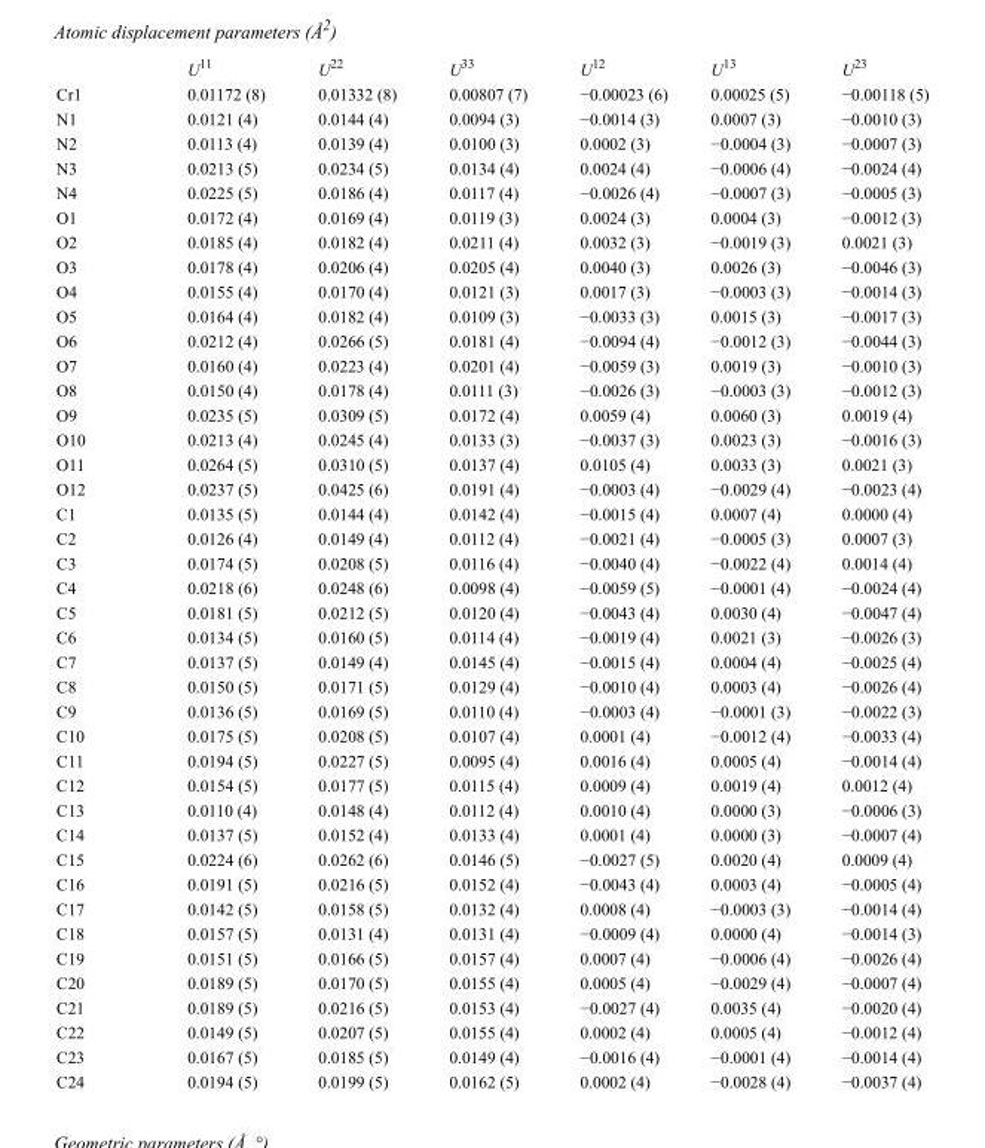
<table><thead><tr><td></td><td>U<sup>11</sup></td><td>U<sup>22</sup></td><td>U<sup>33</sup></td><td>U<sup>12</sup></td><td>U<sup>13</sup></td><td>U<sup>23</sup></td></tr></thead><tbody><tr><td>Cr1</td><td>0.01172 (8)</td><td>0.01332 (8)</td><td>0.00807 (7)</td><td>−0.00023 (6)</td><td>0.00025 (5)</td><td>−0.00118 (5)</td></tr><tr><td>N1</td><td>0.0121 (4)</td><td>0.0144 (4)</td><td>0.0094 (3)</td><td>−0.0014 (3)</td><td>0.0007 (3)</td><td>−0.0010 (3)</td></tr><tr><td>N2</td><td>0.0113 (4)</td><td>0.0139 (4)</td><td>0.0100 (3)</td><td>0.0002 (3)</td><td>−0.0004 (3)</td><td>−0.0007 (3)</td></tr><tr><td>N3</td><td>0.0213 (5)</td><td>0.0234 (5)</td><td>0.0134 (4)</td><td>0.0024 (4)</td><td>−0.0006 (4)</td><td>−0.0024 (4)</td></tr><tr><td>N4</td><td>0.0225 (5)</td><td>0.0186 (4)</td><td>0.0117 (4)</td><td>−0.0026 (4)</td><td>−0.0007 (3)</td><td>−0.0005 (3)</td></tr><tr><td>O1</td><td>0.0172 (4)</td><td>0.0169 (4)</td><td>0.0119 (3)</td><td>0.0024 (3)</td><td>0.0004 (3)</td><td>−0.0012 (3)</td></tr><tr><td>O2</td><td>0.0185 (4)</td><td>0.0182 (4)</td><td>0.0211 (4)</td><td>0.0032 (3)</td><td>−0.0019 (3)</td><td>0.0021 (3)</td></tr><tr><td>O3</td><td>0.0178 (4)</td><td>0.0206 (4)</td><td>0.0205 (4)</td><td>0.0040 (3)</td><td>0.0026 (3)</td><td>−0.0046 (3)</td></tr><tr><td>O4</td><td>0.0155 (4)</td><td>0.0170 (4)</td><td>0.0121 (3)</td><td>0.0017 (3)</td><td>−0.0003 (3)</td><td>−0.0014 (3)</td></tr><tr><td>O5</td><td>0.0164 (4)</td><td>0.0182 (4)</td><td>0.0109 (3)</td><td>−0.0033 (3)</td><td>0.0015 (3)</td><td>−0.0017 (3)</td></tr><tr><td>O6</td><td>0.0212 (4)</td><td>0.0266 (5)</td><td>0.0181 (4)</td><td>−0.0094 (4)</td><td>−0.0012 (3)</td><td>−0.0044 (3)</td></tr><tr><td>O7</td><td>0.0160 (4)</td><td>0.0223 (4)</td><td>0.0201 (4)</td><td>−0.0059 (3)</td><td>0.0019 (3)</td><td>−0.0010 (3)</td></tr><tr><td>O8</td><td>0.0150 (4)</td><td>0.0178 (4)</td><td>0.0111 (3)</td><td>−0.0026 (3)</td><td>−0.0003 (3)</td><td>−0.0012 (3)</td></tr><tr><td>O9</td><td>0.0235 (5)</td><td>0.0309 (5)</td><td>0.0172 (4)</td><td>0.0059 (4)</td><td>0.0060 (3)</td><td>0.0019 (4)</td></tr><tr><td>O10</td><td>0.0213 (4)</td><td>0.0245 (4)</td><td>0.0133 (3)</td><td>−0.0037 (3)</td><td>0.0023 (3)</td><td>−0.0016 (3)</td></tr><tr><td>O11</td><td>0.0264 (5)</td><td>0.0310 (5)</td><td>0.0137 (4)</td><td>0.0105 (4)</td><td>0.0033 (3)</td><td>0.0021 (3)</td></tr><tr><td>O12</td><td>0.0237 (5)</td><td>0.0425 (6)</td><td>0.0191 (4)</td><td>−0.0003 (4)</td><td>−0.0029 (4)</td><td>−0.0023 (4)</td></tr><tr><td>C1</td><td>0.0135 (5)</td><td>0.0144 (4)</td><td>0.0142 (4)</td><td>−0.0015 (4)</td><td>0.0007 (4)</td><td>0.0000 (4)</td></tr><tr><td>C2</td><td>0.0126 (4)</td><td>0.0149 (4)</td><td>0.0112 (4)</td><td>−0.0021 (4)</td><td>−0.0005 (3)</td><td>0.0007 (3)</td></tr><tr><td>C3</td><td>0.0174 (5)</td><td>0.0208 (5)</td><td>0.0116 (4)</td><td>−0.0040 (4)</td><td>−0.0022 (4)</td><td>0.0014 (4)</td></tr><tr><td>C4</td><td>0.0218 (6)</td><td>0.0248 (6)</td><td>0.0098 (4)</td><td>−0.0059 (5)</td><td>−0.0001 (4)</td><td>−0.0024 (4)</td></tr><tr><td>C5</td><td>0.0181 (5)</td><td>0.0212 (5)</td><td>0.0120 (4)</td><td>−0.0043 (4)</td><td>0.0030 (4)</td><td>−0.0047 (4)</td></tr><tr><td>C6</td><td>0.0134 (5)</td><td>0.0160 (5)</td><td>0.0114 (4)</td><td>−0.0019 (4)</td><td>0.0021 (3)</td><td>−0.0026 (3)</td></tr><tr><td>C7</td><td>0.0137 (5)</td><td>0.0149 (4)</td><td>0.0145 (4)</td><td>−0.0015 (4)</td><td>0.0004 (4)</td><td>−0.0025 (4)</td></tr><tr><td>C8</td><td>0.0150 (5)</td><td>0.0171 (5)</td><td>0.0129 (4)</td><td>−0.0010 (4)</td><td>0.0003 (4)</td><td>−0.0026 (4)</td></tr><tr><td>C9</td><td>0.0136 (5)</td><td>0.0169 (5)</td><td>0.0110 (4)</td><td>−0.0003 (4)</td><td>−0.0001 (3)</td><td>−0.0022 (3)</td></tr><tr><td>C10</td><td>0.0175 (5)</td><td>0.0208 (5)</td><td>0.0107 (4)</td><td>0.0001 (4)</td><td>−0.0012 (4)</td><td>−0.0033 (4)</td></tr><tr><td>C11</td><td>0.0194 (5)</td><td>0.0227 (5)</td><td>0.0095 (4)</td><td>0.0016 (4)</td><td>0.0005 (4)</td><td>−0.0014 (4)</td></tr><tr><td>C12</td><td>0.0154 (5)</td><td>0.0177 (5)</td><td>0.0115 (4)</td><td>0.0009 (4)</td><td>0.0019 (4)</td><td>0.0012 (4)</td></tr><tr><td>C13</td><td>0.0110 (4)</td><td>0.0148 (4)</td><td>0.0112 (4)</td><td>0.0010 (4)</td><td>0.0000 (3)</td><td>−0.0006 (3)</td></tr><tr><td>C14</td><td>0.0137 (5)</td><td>0.0152 (4)</td><td>0.0133 (4)</td><td>0.0001 (4)</td><td>0.0000 (3)</td><td>−0.0007 (4)</td></tr><tr><td>C15</td><td>0.0224 (6)</td><td>0.0262 (6)</td><td>0.0146 (5)</td><td>−0.0027 (5)</td><td>0.0020 (4)</td><td>0.0009 (4)</td></tr><tr><td>C16</td><td>0.0191 (5)</td><td>0.0216 (5)</td><td>0.0152 (4)</td><td>−0.0043 (4)</td><td>0.0003 (4)</td><td>−0.0005 (4)</td></tr><tr><td>C17</td><td>0.0142 (5)</td><td>0.0158 (5)</td><td>0.0132 (4)</td><td>0.0008 (4)</td><td>−0.0003 (3)</td><td>−0.0014 (4)</td></tr><tr><td>C18</td><td>0.0157 (5)</td><td>0.0131 (4)</td><td>0.0131 (4)</td><td>−0.0009 (4)</td><td>0.0000 (4)</td><td>−0.0014 (3)</td></tr><tr><td>C19</td><td>0.0151 (5)</td><td>0.0166 (5)</td><td>0.0157 (4)</td><td>0.0007 (4)</td><td>−0.0006 (4)</td><td>−0.0026 (4)</td></tr><tr><td>C20</td><td>0.0189 (5)</td><td>0.0170 (5)</td><td>0.0155 (4)</td><td>0.0005 (4)</td><td>−0.0029 (4)</td><td>−0.0007 (4)</td></tr><tr><td>C21</td><td>0.0189 (5)</td><td>0.0216 (5)</td><td>0.0153 (4)</td><td>−0.0027 (4)</td><td>0.0035 (4)</td><td>−0.0020 (4)</td></tr><tr><td>C22</td><td>0.0149 (5)</td><td>0.0207 (5)</td><td>0.0155 (4)</td><td>0.0002 (4)</td><td>0.0005 (4)</td><td>−0.0012 (4)</td></tr><tr><td>C23</td><td>0.0167 (5)</td><td>0.0185 (5)</td><td>0.0149 (4)</td><td>−0.0016 (4)</td><td>−0.0001 (4)</td><td>−0.0014 (4)</td></tr><tr><td>C24</td><td>0.0194 (5)</td><td>0.0199 (5)</td><td>0.0162 (5)</td><td>0.0002 (4)</td><td>−0.0028 (4)</td><td>−0.0037 (4)</td></tr></tbody></table>